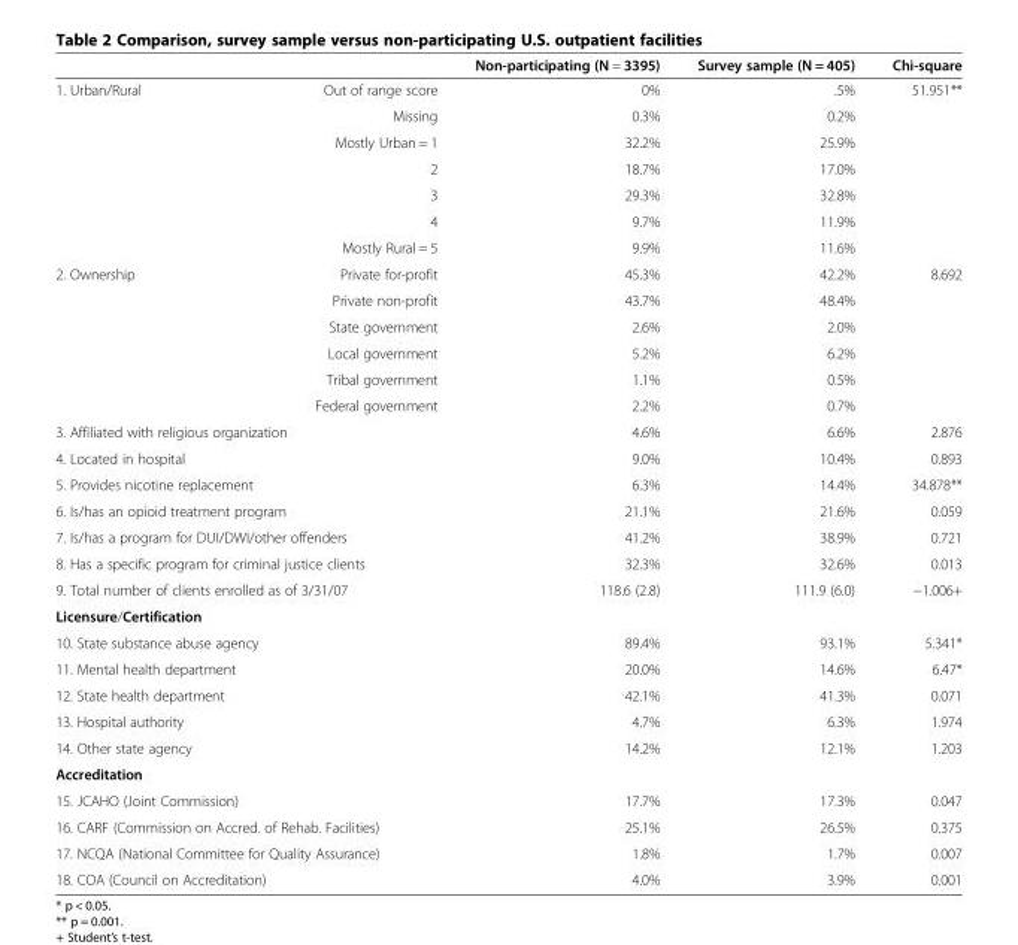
<table><thead><tr><td></td><td></td><td>Non-participating (N = 3395)</td><td>Survey sample (N = 405)</td><td>Chi-square</td></tr></thead><tbody><tr><td rowspan="7">1. Urban/Rural</td><td>Out of range score</td><td>0%</td><td>.5%</td><td>51.951**</td></tr><tr><td>Missing</td><td>0.3%</td><td>0.2%</td><td></td></tr><tr><td>Mostly Urban = 1</td><td>32.2%</td><td>25.9%</td><td></td></tr><tr><td>2</td><td>18.7%</td><td>17.0%</td><td></td></tr><tr><td>3</td><td>29.3%</td><td>32.8%</td><td></td></tr><tr><td>4</td><td>9.7%</td><td>11.9%</td><td></td></tr><tr><td>Mostly Rural = 5</td><td>9.9%</td><td>11.6%</td><td></td></tr><tr><td>2. Ownership</td><td>Private for-profit</td><td>45.3%</td><td>42.2%</td><td>8.692</td></tr><tr><td colspan="2">Private non-profit</td><td>43.7%</td><td>48.4%</td><td></td></tr><tr><td colspan="2">State government</td><td>2.6%</td><td>2.0%</td><td></td></tr><tr><td colspan="2">Local government</td><td>5.2%</td><td>6.2%</td><td></td></tr><tr><td colspan="2">Tribal government</td><td>1.1%</td><td>0.5%</td><td></td></tr><tr><td colspan="2">Federal government</td><td>2.2%</td><td>0.7%</td><td></td></tr><tr><td colspan="2">3. Affiliated with religious organization</td><td>4.6%</td><td>6.6%</td><td>2.876</td></tr><tr><td>4. Located in hospital</td><td></td><td>9.0%</td><td>10.4%</td><td>0.893</td></tr><tr><td>5. Provides nicotine replacement</td><td></td><td>6.3%</td><td>14.4%</td><td>34.878**</td></tr><tr><td>6. Is/has an opioid treatment program</td><td></td><td>21.1%</td><td>21.6%</td><td>0.059</td></tr><tr><td colspan="2">7. Is/has a program for DUI/DWI/other offenders</td><td>41.2%</td><td>38.9%</td><td>0.721</td></tr><tr><td colspan="2">8. Has a specific program for criminal justice clients</td><td>32.3%</td><td>32.6%</td><td>0.013</td></tr><tr><td colspan="2">9. Total number of clients enrolled as of 3/31/07</td><td>118.6 (2.8)</td><td>111.9 (6.0)</td><td>−1.006+</td></tr><tr><td colspan="5">Licensure/Certification</td></tr><tr><td>10. State substance abuse agency</td><td></td><td>89.4%</td><td>93.1%</td><td>5.341*</td></tr><tr><td>11. Mental health department</td><td></td><td>20.0%</td><td>14.6%</td><td>6.47*</td></tr><tr><td>12. State health department</td><td></td><td>42.1%</td><td>41.3%</td><td>0.071</td></tr><tr><td>13. Hospital authority</td><td></td><td>4.7%</td><td>6.3%</td><td>1.974</td></tr><tr><td>14. Other state agency</td><td></td><td>14.2%</td><td>12.1%</td><td>1.203</td></tr><tr><td colspan="5">Accreditation</td></tr><tr><td>15. JCAHO (Joint Commission)</td><td></td><td>17.7%</td><td>17.3%</td><td>0.047</td></tr><tr><td colspan="2">16. CARF (Commission on Accred. of Rehab. Facilities)</td><td>25.1%</td><td>26.5%</td><td>0.375</td></tr><tr><td colspan="2">17. NCQA (National Committee for Quality Assurance)</td><td>1.8%</td><td>1.7%</td><td>0.007</td></tr><tr><td>18. COA (Council on Accreditation)</td><td></td><td>4.0%</td><td>3.9%</td><td>0.001</td></tr></tbody></table>